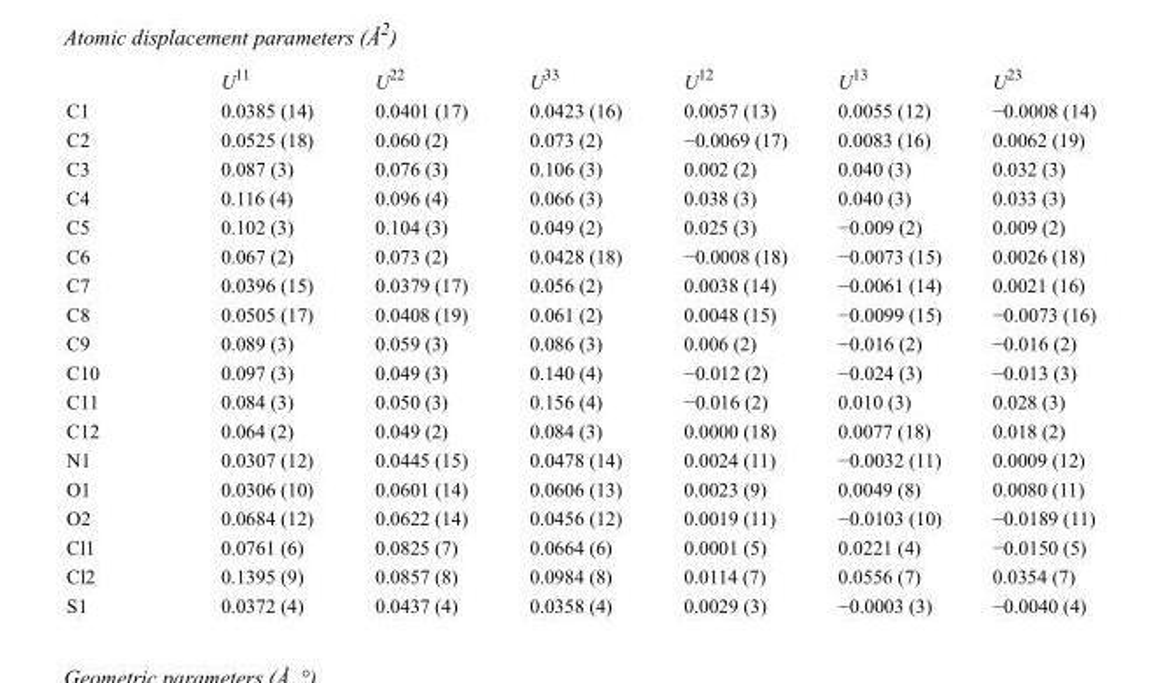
<table><thead><tr><td></td><td>U<sup>11</sup></td><td>U<sup>22</sup></td><td>U<sup>33</sup></td><td>U<sup>12</sup></td><td>U<sup>13</sup></td><td>U<sup>23</sup></td></tr></thead><tbody><tr><td>C1</td><td>0.0385 (14)</td><td>0.0401 (17)</td><td>0.0423 (16)</td><td>0.0057 (13)</td><td>0.0055 (12)</td><td>−0.0008 (14)</td></tr><tr><td>C2</td><td>0.0525 (18)</td><td>0.060 (2)</td><td>0.073 (2)</td><td>−0.0069 (17)</td><td>0.0083 (16)</td><td>0.0062 (19)</td></tr><tr><td>C3</td><td>0.087 (3)</td><td>0.076 (3)</td><td>0.106 (3)</td><td>0.002 (2)</td><td>0.040 (3)</td><td>0.032 (3)</td></tr><tr><td>C4</td><td>0.116 (4)</td><td>0.096 (4)</td><td>0.066 (3)</td><td>0.038 (3)</td><td>0.040 (3)</td><td>0.033 (3)</td></tr><tr><td>C5</td><td>0.102 (3)</td><td>0.104 (3)</td><td>0.049 (2)</td><td>0.025 (3)</td><td>−0.009 (2)</td><td>0.009 (2)</td></tr><tr><td>C6</td><td>0.067 (2)</td><td>0.073 (2)</td><td>0.0428 (18)</td><td>−0.0008 (18)</td><td>−0.0073 (15)</td><td>0.0026 (18)</td></tr><tr><td>C7</td><td>0.0396 (15)</td><td>0.0379 (17)</td><td>0.056 (2)</td><td>0.0038 (14)</td><td>−0.0061 (14)</td><td>0.0021 (16)</td></tr><tr><td>C8</td><td>0.0505 (17)</td><td>0.0408 (19)</td><td>0.061 (2)</td><td>0.0048 (15)</td><td>−0.0099 (15)</td><td>−0.0073 (16)</td></tr><tr><td>C9</td><td>0.089 (3)</td><td>0.059 (3)</td><td>0.086 (3)</td><td>0.006 (2)</td><td>−0.016 (2)</td><td>−0.016 (2)</td></tr><tr><td>C10</td><td>0.097 (3)</td><td>0.049 (3)</td><td>0.140 (4)</td><td>−0.012 (2)</td><td>−0.024 (3)</td><td>−0.013 (3)</td></tr><tr><td>C11</td><td>0.084 (3)</td><td>0.050 (3)</td><td>0.156 (4)</td><td>−0.016 (2)</td><td>0.010 (3)</td><td>0.028 (3)</td></tr><tr><td>C12</td><td>0.064 (2)</td><td>0.049 (2)</td><td>0.084 (3)</td><td>0.0000 (18)</td><td>0.0077 (18)</td><td>0.018 (2)</td></tr><tr><td>N1</td><td>0.0307 (12)</td><td>0.0445 (15)</td><td>0.0478 (14)</td><td>0.0024 (11)</td><td>−0.0032 (11)</td><td>0.0009 (12)</td></tr><tr><td>O1</td><td>0.0306 (10)</td><td>0.0601 (14)</td><td>0.0606 (13)</td><td>0.0023 (9)</td><td>0.0049 (8)</td><td>0.0080 (11)</td></tr><tr><td>O2</td><td>0.0684 (12)</td><td>0.0622 (14)</td><td>0.0456 (12)</td><td>0.0019 (11)</td><td>−0.0103 (10)</td><td>−0.0189 (11)</td></tr><tr><td>Cl1</td><td>0.0761 (6)</td><td>0.0825 (7)</td><td>0.0664 (6)</td><td>0.0001 (5)</td><td>0.0221 (4)</td><td>−0.0150 (5)</td></tr><tr><td>Cl2</td><td>0.1395 (9)</td><td>0.0857 (8)</td><td>0.0984 (8)</td><td>0.0114 (7)</td><td>0.0556 (7)</td><td>0.0354 (7)</td></tr><tr><td>S1</td><td>0.0372 (4)</td><td>0.0437 (4)</td><td>0.0358 (4)</td><td>0.0029 (3)</td><td>−0.0003 (3)</td><td>−0.0040 (4)</td></tr></tbody></table>